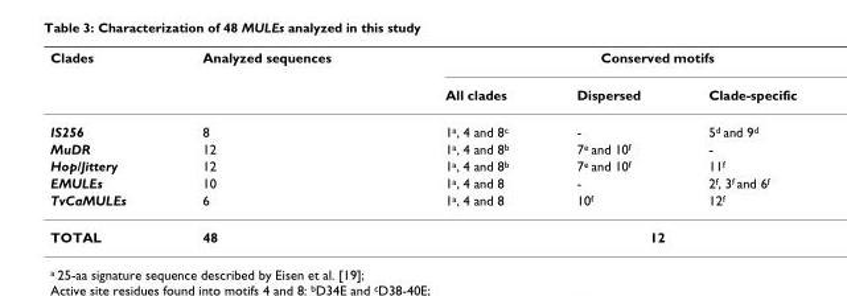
<table><thead><tr><td rowspan="2">Clades</td><td rowspan="2">Analyzed sequences</td><td colspan="3">Conserved motifs</td></tr><tr><td>All clades</td><td>Dispersed</td><td>Clade-specific</td></tr></thead><tbody><tr><td>IS256</td><td>8</td><td>1<sup>a</sup>, 4 and 8<sup>c</sup></td><td>-</td><td>5<sup>d</sup> and 9<sup>d</sup></td></tr><tr><td>MuDR</td><td>12</td><td>1<sup>a</sup>, 4 and 8<sup>b</sup></td><td>7<sup>e</sup> and 10<sup>f</sup></td><td>-</td></tr><tr><td>Hop/Jittery</td><td>12</td><td>1<sup>a</sup>, 4 and 8<sup>b</sup></td><td>7<sup>e</sup> and 10<sup>f</sup></td><td>11<sup>f</sup></td></tr><tr><td>EMULEs</td><td>10</td><td>1<sup>a</sup>, 4 and 8</td><td>-</td><td>2<sup>f</sup>, 3<sup>f</sup> and 6<sup>f</sup></td></tr><tr><td>TvCaMULEs</td><td>6</td><td>1<sup>a</sup>, 4 and 8</td><td>10<sup>f</sup></td><td>12<sup>f</sup></td></tr><tr><td>TOTAL</td><td>48</td><td colspan="3">12</td></tr></tbody></table>